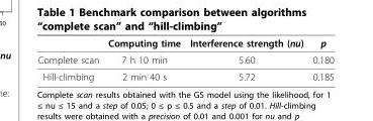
<table><thead><tr><td></td><td>Computing time</td><td>Interference strength (nu)</td><td>p</td></tr></thead><tbody><tr><td>Complete scan</td><td>7 h 10 min</td><td>5.60</td><td>0.180</td></tr><tr><td>Hill-climbing</td><td>2 min 40 s</td><td>5.72</td><td>0.185</td></tr></tbody></table>